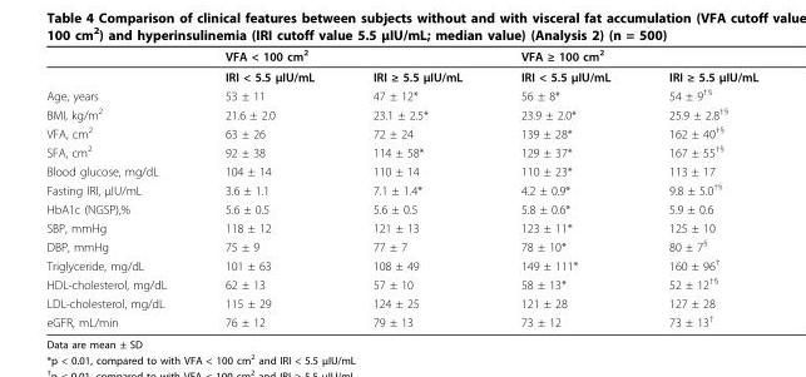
<table><thead><tr><td></td><td>VFA &lt; 100 cm<sup>2</sup></td><td></td><td>VFA ≥ 100 cm<sup>2</sup></td><td></td></tr></thead><tbody><tr><td></td><td>IRI &lt; 5.5 μIU/mL</td><td>IRI ≥ 5.5 μIU/mL</td><td>IRI &lt; 5.5 μIU/mL</td><td>IRI ≥ 5.5 μIU/mL</td></tr><tr><td>Age, years</td><td>53 ± 11</td><td>47 ± 12*</td><td>56 ± 8*</td><td>54 ± 9<sup>†§</sup></td></tr><tr><td>BMI, kg/m<sup>2</sup></td><td>21.6 ± 2.0</td><td>23.1 ± 2.5*</td><td>23.9 ± 2.0*</td><td>25.9 ± 2.8<sup>†§</sup></td></tr><tr><td>VFA, cm<sup>2</sup></td><td>63 ± 26</td><td>72 ± 24</td><td>139 ± 28*</td><td>162 ± 40<sup>†§</sup></td></tr><tr><td>SFA, cm<sup>2</sup></td><td>92 ± 38</td><td>114 ± 58*</td><td>129 ± 37*</td><td>167 ± 55<sup>†§</sup></td></tr><tr><td>Blood glucose, mg/dL</td><td>104 ± 14</td><td>110 ± 14</td><td>110 ± 23*</td><td>113 ± 17</td></tr><tr><td>Fasting IRI, μIU/mL</td><td>3.6 ± 1.1</td><td>7.1 ± 1.4*</td><td>4.2 ± 0.9*</td><td>9.8 ± 5.0<sup>†§</sup></td></tr><tr><td>HbA1c (NGSP),%</td><td>5.6 ± 0.5</td><td>5.6 ± 0.5</td><td>5.8 ± 0.6*</td><td>5.9 ± 0.6</td></tr><tr><td>SBP, mmHg</td><td>118 ± 12</td><td>121 ± 13</td><td>123 ± 11*</td><td>125 ± 10</td></tr><tr><td>DBP, mmHg</td><td>75 ± 9</td><td>77 ± 7</td><td>78 ± 10*</td><td>80 ± 7<sup>§</sup></td></tr><tr><td>Triglyceride, mg/dL</td><td>101 ± 63</td><td>108 ± 49</td><td>149 ± 111*</td><td>160 ± 96<sup>†</sup></td></tr><tr><td>HDL-cholesterol, mg/dL</td><td>62 ± 13</td><td>57 ± 10</td><td>58 ± 13*</td><td>52 ± 12<sup>†§</sup></td></tr><tr><td>LDL-cholesterol, mg/dL</td><td>115 ± 29</td><td>124 ± 25</td><td>121 ± 28</td><td>127 ± 28</td></tr><tr><td>eGFR, mL/min</td><td>76 ± 12</td><td>79 ± 13</td><td>73 ± 12</td><td>73 ± 13<sup>†</sup></td></tr></tbody></table>